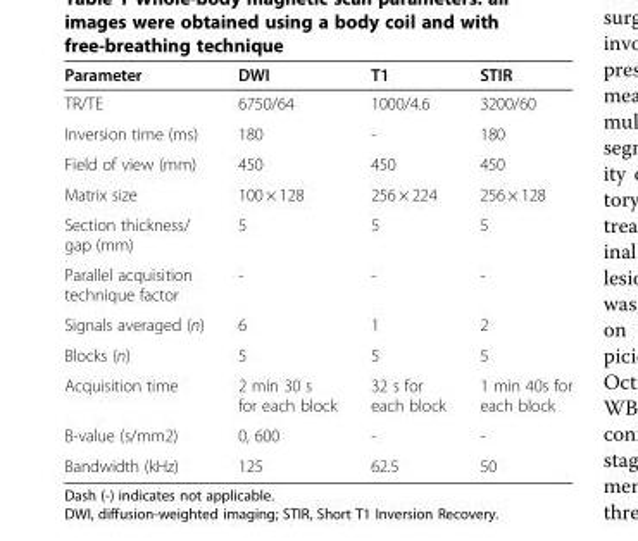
<table><thead><tr><td>Parameter</td><td>DWI</td><td>T1</td><td>STIR</td></tr></thead><tbody><tr><td>TR/TE</td><td>6750/64</td><td>1000/4.6</td><td>3200/60</td></tr><tr><td>Inversion time (ms)</td><td>180</td><td>-</td><td>180</td></tr><tr><td>Field of view (mm)</td><td>450</td><td>450</td><td>450</td></tr><tr><td>Matrix size</td><td>100 × 128</td><td>256 × 224</td><td>256 × 128</td></tr><tr><td>Section thickness/ gap (mm)</td><td>5</td><td>5</td><td>5</td></tr><tr><td>Parallel acquisition technique factor</td><td>-</td><td>-</td><td>-</td></tr><tr><td>Signals averaged (n)</td><td>6</td><td>1</td><td>2</td></tr><tr><td>Blocks (n)</td><td>5</td><td>5</td><td>5</td></tr><tr><td>Acquisition time</td><td>2 min 30 s for each block</td><td>32 s for each block</td><td>1 min 40s for each block</td></tr><tr><td>B-value (s/mm2)</td><td>0, 600</td><td>-</td><td>-</td></tr><tr><td>Bandwidth (kHz)</td><td>125</td><td>62.5</td><td>50</td></tr></tbody></table>